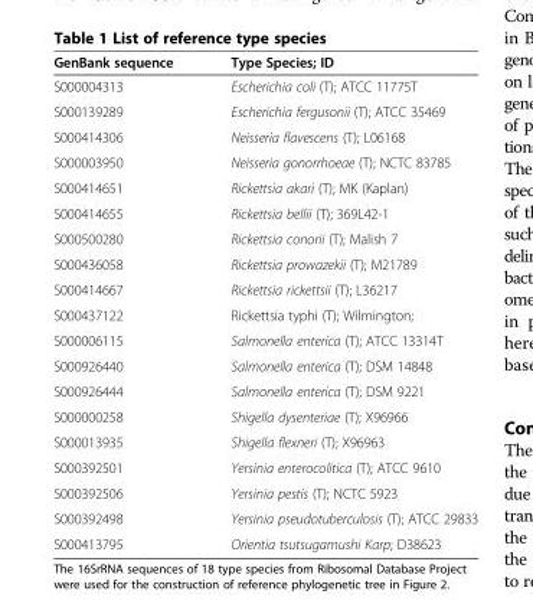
<table><thead><tr><td>GenBank sequence</td><td>Type Species; ID</td></tr></thead><tbody><tr><td>S000004313</td><td>Escherichia coli (T); ATCC 11775T</td></tr><tr><td>S000139289</td><td>Escherichia fergusonii (T); ATCC 35469</td></tr><tr><td>S000414306</td><td>Neisseria flavescens (T); L06168</td></tr><tr><td>S000003950</td><td>Neisseria gonorrhoeae (T); NCTC 83785</td></tr><tr><td>S000414651</td><td>Rickettsia akari (T); MK (Kaplan)</td></tr><tr><td>S000414655</td><td>Rickettsia bellii (T); 369L42-1</td></tr><tr><td>S000500280</td><td>Rickettsia conorii (T); Malish 7</td></tr><tr><td>S000436058</td><td>Rickettsia prowazekii (T); M21789</td></tr><tr><td>S000414667</td><td>Rickettsia rickettsii (T); L36217</td></tr><tr><td>S000437122</td><td>Rickettsia typhi (T); Wilmington;</td></tr><tr><td>S000006115</td><td>Salmonella enterica (T); ATCC 13314T</td></tr><tr><td>S000926440</td><td>Salmonella enterica (T); DSM 14848</td></tr><tr><td>S000926444</td><td>Salmonella enterica (T); DSM 9221</td></tr><tr><td>S000000258</td><td>Shigella dysenteriae (T); X96966</td></tr><tr><td>S000013935</td><td>Shigella flexneri (T); X96963</td></tr><tr><td>S000392501</td><td>Yersinia enterocolitica (T); ATCC 9610</td></tr><tr><td>S000392506</td><td>Yersinia pestis (T); NCTC 5923</td></tr><tr><td>S000392498</td><td>Yersinia pseudotuberculosis (T); ATCC 29833</td></tr><tr><td>S000413795</td><td>Orientia tsutsugamushi Karp; D38623</td></tr></tbody></table>